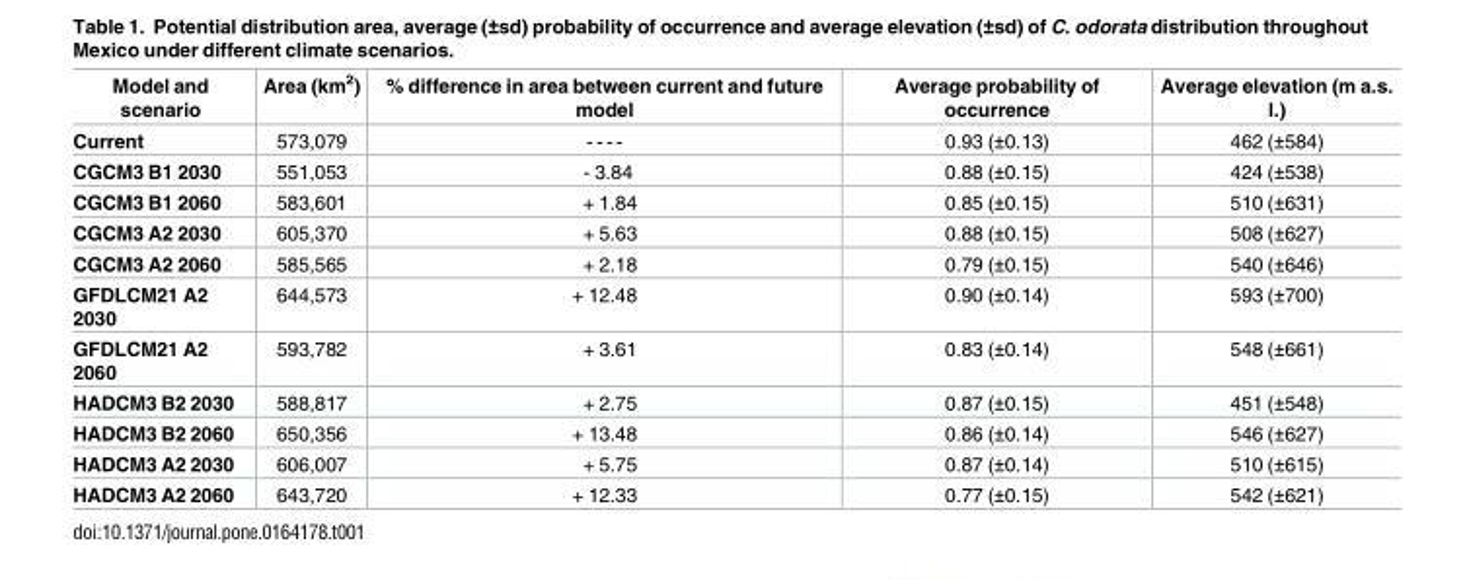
<table><thead><tr><td>Model and scenario</td><td>Area (km<sup>2</sup>)</td><td>% difference in area between current and future model</td><td>Average probability of occurrence</td><td>Average elevation (m a.s. l.)</td></tr></thead><tbody><tr><td>Current</td><td>573,079</td><td>- - - -</td><td>0.93 (±0.13)</td><td>462 (±584)</td></tr><tr><td>CGCM3 B1 2030</td><td>551,053</td><td>- 3.84</td><td>0.88 (±0.15)</td><td>424 (±538)</td></tr><tr><td>CGCM3 B1 2060</td><td>583,601</td><td>+ 1.84</td><td>0.85 (±0.15)</td><td>510 (±631)</td></tr><tr><td>CGCM3 A2 2030</td><td>605,370</td><td>+ 5.63</td><td>0.88 (±0.15)</td><td>508 (±627)</td></tr><tr><td>CGCM3 A2 2060</td><td>585,565</td><td>+ 2.18</td><td>0.79 (±0.15)</td><td>540 (±646)</td></tr><tr><td>GFDLCM21 A2 2030</td><td>644,573</td><td>+ 12.48</td><td>0.90 (±0.14)</td><td>593 (±700)</td></tr><tr><td>GFDLCM21 A2 2060</td><td>593,782</td><td>+ 3.61</td><td>0.83 (±0.14)</td><td>548 (±661)</td></tr><tr><td>HADCM3 B2 2030</td><td>588,817</td><td>+ 2.75</td><td>0.87 (±0.15)</td><td>451 (±548)</td></tr><tr><td>HADCM3 B2 2060</td><td>650,356</td><td>+ 13.48</td><td>0.86 (±0.14)</td><td>546 (±627)</td></tr><tr><td>HADCM3 A2 2030</td><td>606,007</td><td>+ 5.75</td><td>0.87 (±0.14)</td><td>510 (±615)</td></tr><tr><td>HADCM3 A2 2060</td><td>643,720</td><td>+ 12.33</td><td>0.77 (±0.15)</td><td>542 (±621)</td></tr></tbody></table>